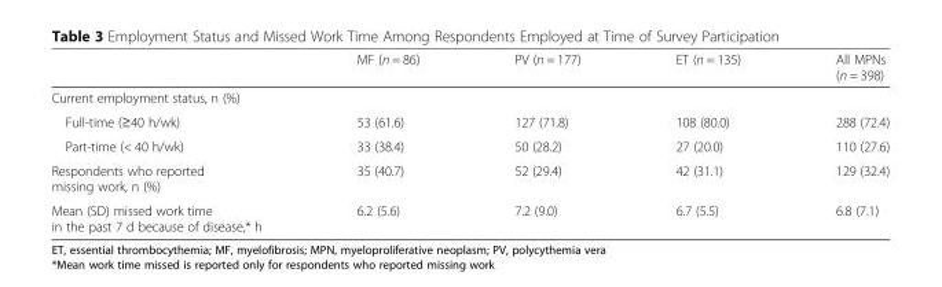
<table><thead><tr><td></td><td>MF (n = 86)</td><td>PV (n = 177)</td><td>ET (n = 135)</td><td>All MPNs (n = 398)</td></tr></thead><tbody><tr><td colspan="5">Current employment status, n (%)</td></tr><tr><td>Full-time (≥40 h/wk)</td><td>53 (61.6)</td><td>127 (71.8)</td><td>108 (80.0)</td><td>288 (72.4)</td></tr><tr><td>Part-time (&lt; 40 h/wk)</td><td>33 (38.4)</td><td>50 (28.2)</td><td>27 (20.0)</td><td>110 (27.6)</td></tr><tr><td>Respondents who reported missing work, n (%)</td><td>35 (40.7)</td><td>52 (29.4)</td><td>42 (31.1)</td><td>129 (32.4)</td></tr><tr><td>Mean (SD) missed work time in the past 7 d because of disease,* h</td><td>6.2 (5.6)</td><td>7.2 (9.0)</td><td>6.7 (5.5)</td><td>6.8 (7.1)</td></tr></tbody></table>